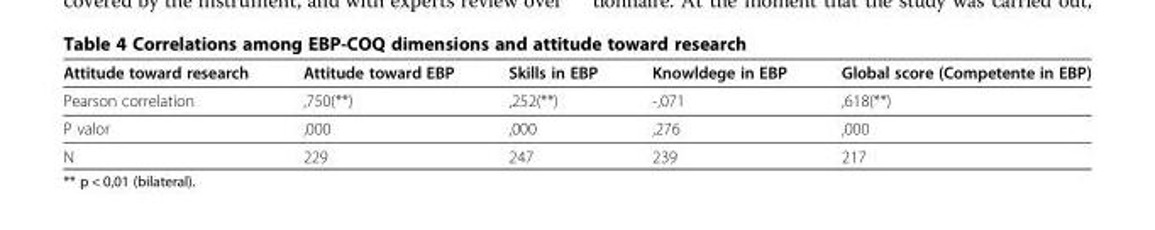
<table><thead><tr><td>Attitude toward research</td><td>Attitude toward EBP</td><td>Skills in EBP</td><td>Knowldege in EBP</td><td>Global score (Competente in EBP)</td></tr></thead><tbody><tr><td>Pearson correlation</td><td>,750(**)</td><td>,252(**)</td><td>-,071</td><td>,618(**)</td></tr><tr><td>P valor</td><td>,000</td><td>,000</td><td>,276</td><td>,000</td></tr><tr><td>N</td><td>229</td><td>247</td><td>239</td><td>217</td></tr></tbody></table>